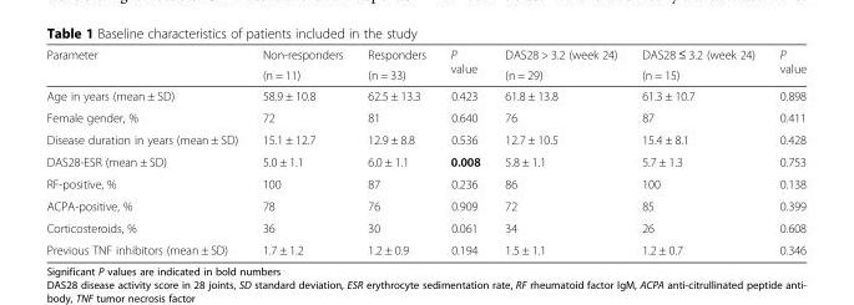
<table><thead><tr><td rowspan="2">Parameter</td><td rowspan="2">Non-responders (n = 11)</td><td rowspan="2">Responders (n = 33)</td><td rowspan="2">P value</td><td rowspan="2">DAS28 &gt; 3.2 (week 24) (n = 29)</td><td rowspan="2">DAS28 ≤ 3.2 (week 24) (n = 15)</td><td rowspan="2">P value</td></tr><tr></tr></thead><tbody><tr><td>Age in years (mean ± SD)</td><td>58.9 ± 10.8</td><td>62.5 ± 13.3</td><td>0.423</td><td>61.8 ± 13.8</td><td>61.3 ± 10.7</td><td>0.898</td></tr><tr><td>Female gender, %</td><td>72</td><td>81</td><td>0.640</td><td>76</td><td>87</td><td>0.411</td></tr><tr><td>Disease duration in years (mean ± SD)</td><td>15.1 ± 12.7</td><td>12.9 ± 8.8</td><td>0.536</td><td>12.7 ± 10.5</td><td>15.4 ± 8.1</td><td>0.428</td></tr><tr><td>DAS28-ESR (mean ± SD)</td><td>5.0 ± 1.1</td><td>6.0 ± 1.1</td><td>0.008</td><td>5.8 ± 1.1</td><td>5.7 ± 1.3</td><td>0.753</td></tr><tr><td>RF-positive, %</td><td>100</td><td>87</td><td>0.236</td><td>86</td><td>100</td><td>0.138</td></tr><tr><td>ACPA-positive, %</td><td>78</td><td>76</td><td>0.909</td><td>72</td><td>85</td><td>0.399</td></tr><tr><td>Corticosteroids, %</td><td>36</td><td>30</td><td>0.061</td><td>34</td><td>26</td><td>0.608</td></tr><tr><td>Previous TNF inhibitors (mean ± SD)</td><td>1.7 ± 1.2</td><td>1.2 ± 0.9</td><td>0.194</td><td>1.5 ± 1.1</td><td>1.2 ± 0.7</td><td>0.346</td></tr></tbody></table>